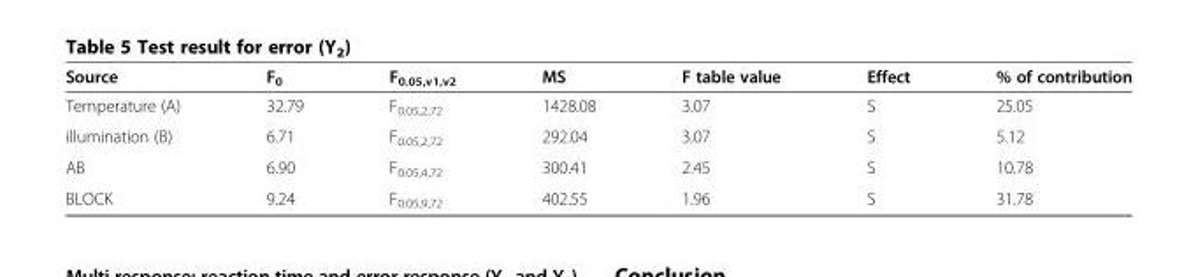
<table><thead><tr><td>Source</td><td>F<sub>0</sub></td><td>F<sub>0.05,v1,v2</sub></td><td>MS</td><td>F table value</td><td>Effect</td><td>% of contribution</td></tr></thead><tbody><tr><td>Temperature (A)</td><td>32.79</td><td>F<sub>0.05,2,72</sub></td><td>1428.08</td><td>3.07</td><td>S</td><td>25.05</td></tr><tr><td>illumination (B)</td><td>6.71</td><td>F<sub>0.05,2,72</sub></td><td>292.04</td><td>3.07</td><td>S</td><td>5.12</td></tr><tr><td>AB</td><td>6.90</td><td>F<sub>0.05,4,72</sub></td><td>300.41</td><td>2.45</td><td>S</td><td>10.78</td></tr><tr><td>BLOCK</td><td>9.24</td><td>F<sub>0.05,9,72</sub></td><td>402.55</td><td>1.96</td><td>S</td><td>31.78</td></tr></tbody></table>